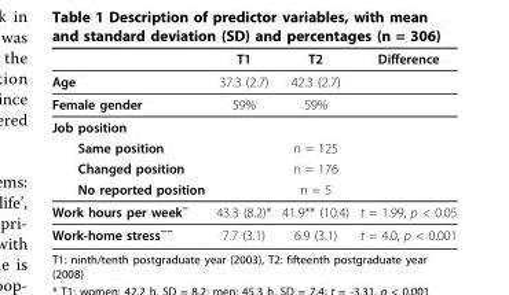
<table><thead><tr><td></td><td>T1</td><td>T2</td><td>Difference</td></tr></thead><tbody><tr><td>Age</td><td>37.3 (2.7)</td><td>42.3 (2.7)</td><td></td></tr><tr><td>Female gender</td><td>59%</td><td>59%</td><td></td></tr><tr><td colspan="4">Job position</td></tr><tr><td>Same position</td><td></td><td>n = 125</td><td></td></tr><tr><td>Changed position</td><td></td><td>n = 176</td><td></td></tr><tr><td>No reported position</td><td></td><td>n = 5</td><td></td></tr><tr><td>Work hours per week<sup>~</sup></td><td>43.3 (8.2)*</td><td>41.9** (10.4)</td><td>t = 1.99, p &lt; 0.05</td></tr><tr><td>Work-home stress<sup>~~</sup></td><td>7.7 (3.1)</td><td>6.9 (3.1)</td><td>t = 4.0, p &lt; 0.001</td></tr></tbody></table>